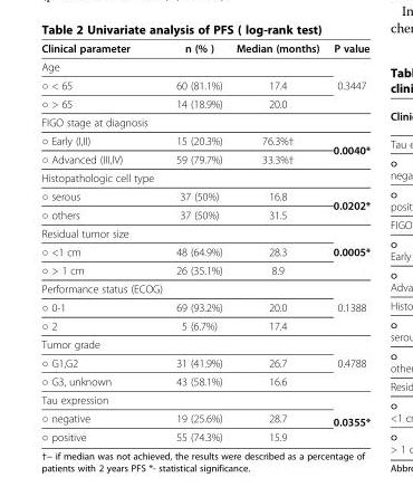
<table><thead><tr><td>Clinical parameter</td><td>n (% )</td><td>Median (months)</td><td>P value</td></tr></thead><tbody><tr><td colspan="3">Age</td><td rowspan="3">0.3447</td></tr><tr><td>○ &lt; 65</td><td>60 (81.1%)</td><td>17.4</td></tr><tr><td>○ &gt; 65</td><td>14 (18.9%)</td><td>20.0</td></tr><tr><td colspan="4">FIGO stage at diagnosis</td></tr><tr><td>○ Early (I,II)</td><td>15 (20.3%)</td><td>76.3%†</td><td rowspan="2">0.0040*</td></tr><tr><td>○ Advanced (III,IV)</td><td>59 (79.7%)</td><td>33.3%†</td></tr><tr><td colspan="4">Histopathologic cell type</td></tr><tr><td>○ serous</td><td>37 (50%)</td><td>16.8</td><td rowspan="2">0.0202*</td></tr><tr><td>○ others</td><td>37 (50%)</td><td>31.5</td></tr><tr><td colspan="3">Residual tumor size</td><td rowspan="3">0.0005*</td></tr><tr><td>○ &lt;1 cm</td><td>48 (64.9%)</td><td>28.3</td></tr><tr><td>○ &gt; 1 cm</td><td>26 (35.1%)</td><td>8.9</td></tr><tr><td colspan="3">Performance status (ECOG)</td><td rowspan="3">0.1388</td></tr><tr><td>○ 0-1</td><td>69 (93.2%)</td><td>20.0</td></tr><tr><td>○ 2</td><td>5 (6.7%)</td><td>17.4</td></tr><tr><td colspan="3">Tumor grade</td><td rowspan="3">0.4788</td></tr><tr><td>○ G1,G2</td><td>31 (41.9%)</td><td>26.7</td></tr><tr><td>○ G3, unknown</td><td>43 (58.1%)</td><td>16.6</td></tr><tr><td colspan="3">Tau expression</td><td rowspan="3">0.0355*</td></tr><tr><td>○ negative</td><td>19 (25.6%)</td><td>28.7</td></tr><tr><td>○ positive</td><td>55 (74.3%)</td><td>15.9</td></tr></tbody></table>